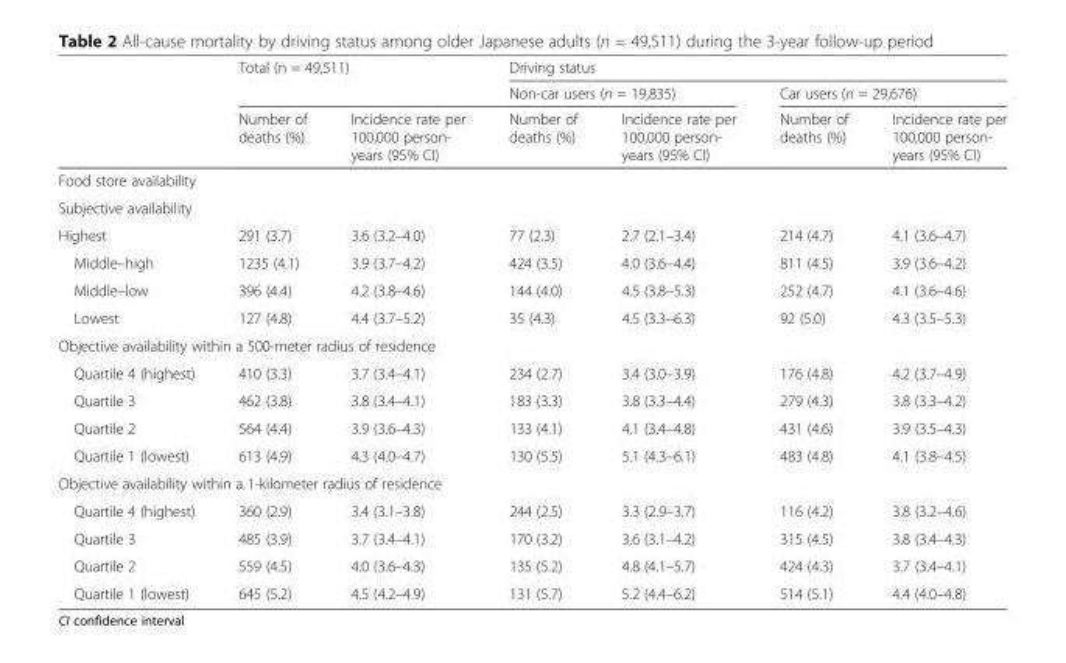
<table><thead><tr><td rowspan="3"></td><td rowspan="2" colspan="2">Total (n = 49,511)</td><td colspan="4">Driving status</td></tr><tr><td colspan="2">Non-car users (n = 19,835)</td><td colspan="2">Car users (n = 29,676)</td></tr><tr><td>Number of deaths (%)</td><td>Incidence rate per 100,000 person- years (95% CI)</td><td>Number of deaths (%)</td><td>Incidence rate per 100,000 person- years (95% CI)</td><td>Number of deaths (%)</td><td>Incidence rate per 100,000 person- years (95% CI)</td></tr></thead><tbody><tr><td colspan="7">Food store availability</td></tr><tr><td colspan="7">Subjective availability</td></tr><tr><td>Highest</td><td>291 (3.7)</td><td>3.6 (3.2–4.0)</td><td>77 (2.3)</td><td>2.7 (2.1–3.4)</td><td>214 (4.7)</td><td>4.1 (3.6–4.7)</td></tr><tr><td>Middle–high</td><td>1235 (4.1)</td><td>3.9 (3.7–4.2)</td><td>424 (3.5)</td><td>4.0 (3.6–4.4)</td><td>811 (4.5)</td><td>3.9 (3.6–4.2)</td></tr><tr><td>Middle–low</td><td>396 (4.4)</td><td>4.2 (3.8–4.6)</td><td>144 (4.0)</td><td>4.5 (3.8–5.3)</td><td>252 (4.7)</td><td>4.1 (3.6–4.6)</td></tr><tr><td>Lowest</td><td>127 (4.8)</td><td>4.4 (3.7–5.2)</td><td>35 (4.3)</td><td>4.5 (3.3–6.3)</td><td>92 (5.0)</td><td>4.3 (3.5–5.3)</td></tr><tr><td colspan="7">Objective availability within a 500-meter radius of residence</td></tr><tr><td>Quartile 4 (highest)</td><td>410 (3.3)</td><td>3.7 (3.4–4.1)</td><td>234 (2.7)</td><td>3.4 (3.0–3.9)</td><td>176 (4.8)</td><td>4.2 (3.7–4.9)</td></tr><tr><td>Quartile 3</td><td>462 (3.8)</td><td>3.8 (3.4–4.1)</td><td>183 (3.3)</td><td>3.8 (3.3–4.4)</td><td>279 (4.3)</td><td>3.8 (3.3–4.2)</td></tr><tr><td>Quartile 2</td><td>564 (4.4)</td><td>3.9 (3.6–4.3)</td><td>133 (4.1)</td><td>4.1 (3.4–4.8)</td><td>431 (4.6)</td><td>3.9 (3.5–4.3)</td></tr><tr><td>Quartile 1 (lowest)</td><td>613 (4.9)</td><td>4.3 (4.0–4.7)</td><td>130 (5.5)</td><td>5.1 (4.3–6.1)</td><td>483 (4.8)</td><td>4.1 (3.8–4.5)</td></tr><tr><td colspan="7">Objective availability within a 1-kilometer radius of residence</td></tr><tr><td>Quartile 4 (highest)</td><td>360 (2.9)</td><td>3.4 (3.1–3.8)</td><td>244 (2.5)</td><td>3.3 (2.9–3.7)</td><td>116 (4.2)</td><td>3.8 (3.2–4.6)</td></tr><tr><td>Quartile 3</td><td>485 (3.9)</td><td>3.7 (3.4–4.1)</td><td>170 (3.2)</td><td>3.6 (3.1–4.2)</td><td>315 (4.5)</td><td>3.8 (3.4–4.3)</td></tr><tr><td>Quartile 2</td><td>559 (4.5)</td><td>4.0 (3.6–4.3)</td><td>135 (5.2)</td><td>4.8 (4.1–5.7)</td><td>424 (4.3)</td><td>3.7 (3.4–4.1)</td></tr><tr><td>Quartile 1 (lowest)</td><td>645 (5.2)</td><td>4.5 (4.2–4.9)</td><td>131 (5.7)</td><td>5.2 (4.4–6.2)</td><td>514 (5.1)</td><td>4.4 (4.0–4.8)</td></tr></tbody></table>